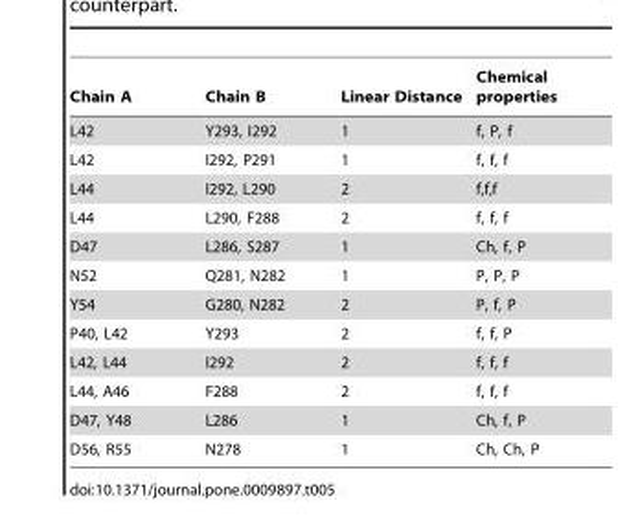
<table><thead><tr><td>Chain A</td><td>Chain B</td><td>Linear Distance</td><td>Chemical properties</td></tr></thead><tbody><tr><td>L42</td><td>Y293, I292</td><td>1</td><td>f, P, f</td></tr><tr><td>L42</td><td>I292, P291</td><td>1</td><td>f, f, f</td></tr><tr><td>L44</td><td>I292, L290</td><td>2</td><td>f,f,f</td></tr><tr><td>L44</td><td>L290, F288</td><td>2</td><td>f, f, f</td></tr><tr><td>D47</td><td>L286, S287</td><td>1</td><td>Ch, f, P</td></tr><tr><td>N52</td><td>Q281, N282</td><td>1</td><td>P, P, P</td></tr><tr><td>Y54</td><td>G280, N282</td><td>2</td><td>P, f, P</td></tr><tr><td>P40, L42</td><td>Y293</td><td>2</td><td>f, f, P</td></tr><tr><td>L42, L44</td><td>I292</td><td>2</td><td>f, f, f</td></tr><tr><td>L44, A46</td><td>F288</td><td>2</td><td>f, f, f</td></tr><tr><td>D47, Y48</td><td>L286</td><td>1</td><td>Ch, f, P</td></tr><tr><td>D56, R55</td><td>N278</td><td>1</td><td>Ch, Ch, P</td></tr></tbody></table>